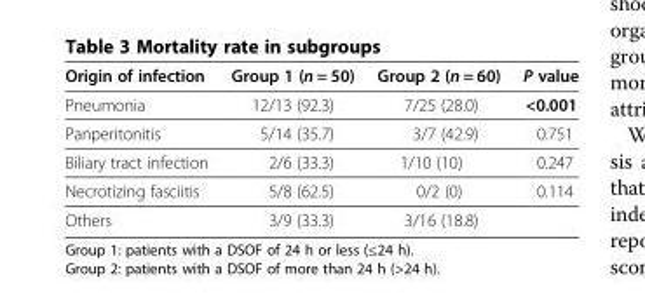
<table><thead><tr><td>Origin of infection</td><td>Group 1 (n = 50)</td><td>Group 2 (n = 60)</td><td>P value</td></tr></thead><tbody><tr><td>Pneumonia</td><td>12/13 (92.3)</td><td>7/25 (28.0)</td><td>&lt;0.001</td></tr><tr><td>Panperitonitis</td><td>5/14 (35.7)</td><td>3/7 (42.9)</td><td>0.751</td></tr><tr><td>Biliary tract infection</td><td>2/6 (33.3)</td><td>1/10 (10)</td><td>0.247</td></tr><tr><td>Necrotizing fasciitis</td><td>5/8 (62.5)</td><td>0/2 (0)</td><td>0.114</td></tr><tr><td>Others</td><td>3/9 (33.3)</td><td>3/16 (18.8)</td><td></td></tr></tbody></table>